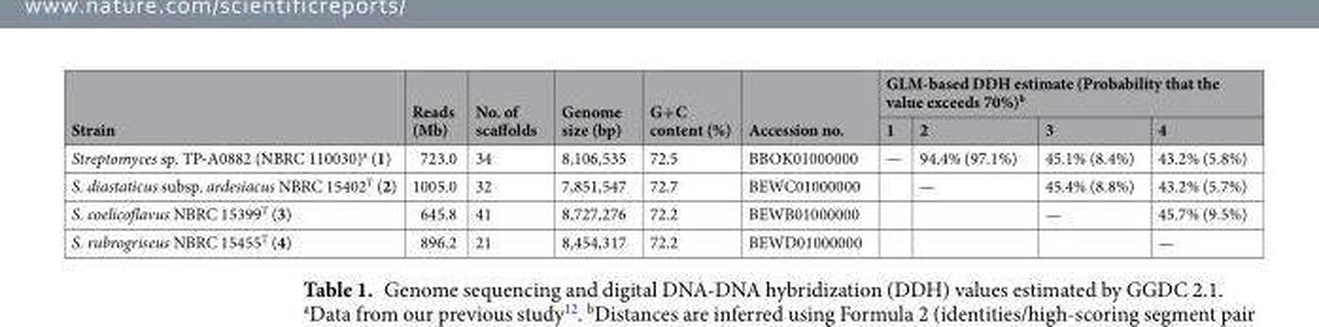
<table><thead><tr><td rowspan="2">Strain</td><td rowspan="2">Reads (Mb)</td><td rowspan="2">No. of scaffolds</td><td rowspan="2">Genome size (bp)</td><td rowspan="2">G+C content (%)</td><td rowspan="2">Accession no.</td><td colspan="4">GLM-based DDH estimate (Probability that the value exceeds 70%)<sup>b</sup></td></tr><tr><td>1</td><td>2</td><td>3</td><td>4</td></tr></thead><tbody><tr><td>Streptomyces sp. TP-A0882 (NBRC 110030)<sup>a</sup> (1)</td><td>723.0</td><td>34</td><td>8,106,535</td><td>72.5</td><td>BBOK01000000</td><td>—</td><td>94.4% (97.1%)</td><td>45.1% (8.4%)</td><td>43.2% (5.8%)</td></tr><tr><td>S. diastaticus subsp. ardesiacus NBRC 15402<sup>T</sup> (2)</td><td>1005.0</td><td>32</td><td>7,851,547</td><td>72.7</td><td>BEWC01000000</td><td></td><td>—</td><td>45.4% (8.8%)</td><td>43.2% (5.7%)</td></tr><tr><td>S. coelicoflavus NBRC 15399<sup>T</sup> (3)</td><td>645.8</td><td>41</td><td>8,727,276</td><td>72.2</td><td>BEWB01000000</td><td></td><td></td><td>—</td><td>45.7% (9.5%)</td></tr><tr><td>S. rubrogriseus NBRC 15455<sup>T</sup> (4)</td><td>896.2</td><td>21</td><td>8,454,317</td><td>72.2</td><td>BEWD01000000</td><td></td><td></td><td></td><td>—</td></tr></tbody></table>